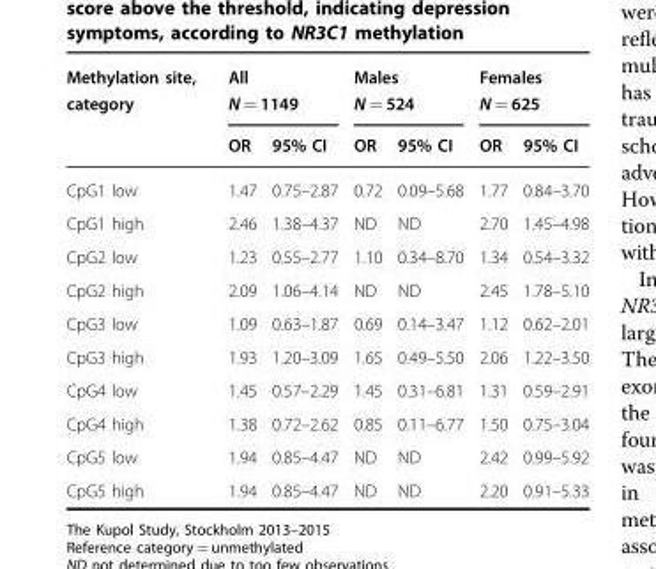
<table><thead><tr><td rowspan="2">Methylation site, category</td><td colspan="2">All N = 1149</td><td colspan="2">Males N = 524</td><td colspan="2">Females N = 625</td></tr><tr><td>OR</td><td>95% CI</td><td>OR</td><td>95% CI</td><td>OR</td><td>95% CI</td></tr></thead><tbody><tr><td>CpG1 low</td><td>1.47</td><td>0.75–2.87</td><td>0.72</td><td>0.09–5.68</td><td>1.77</td><td>0.84–3.70</td></tr><tr><td>CpG1 high</td><td>2.46</td><td>1.38–4.37</td><td>ND</td><td>ND</td><td>2.70</td><td>1.45–4.98</td></tr><tr><td>CpG2 low</td><td>1.23</td><td>0.55–2.77</td><td>1.10</td><td>0.34–8.70</td><td>1.34</td><td>0.54–3.32</td></tr><tr><td>CpG2 high</td><td>2.09</td><td>1.06–4.14</td><td>ND</td><td>ND</td><td>2.45</td><td>1.78–5.10</td></tr><tr><td>CpG3 low</td><td>1.09</td><td>0.63–1.87</td><td>0.69</td><td>0.14–3.47</td><td>1.12</td><td>0.62–2.01</td></tr><tr><td>CpG3 high</td><td>1.93</td><td>1.20–3.09</td><td>1.65</td><td>0.49–5.50</td><td>2.06</td><td>1.22–3.50</td></tr><tr><td>CpG4 low</td><td>1.45</td><td>0.57–2.29</td><td>1.45</td><td>0.31–6.81</td><td>1.31</td><td>0.59–2.91</td></tr><tr><td>CpG4 high</td><td>1.38</td><td>0.72–2.62</td><td>0.85</td><td>0.11–6.77</td><td>1.50</td><td>0.75–3.04</td></tr><tr><td>CpG5 low</td><td>1.94</td><td>0.85–4.47</td><td>ND</td><td>ND</td><td>2.42</td><td>0.99–5.92</td></tr><tr><td>CpG5 high</td><td>1.94</td><td>0.85–4.47</td><td>ND</td><td>ND</td><td>2.20</td><td>0.91–5.33</td></tr></tbody></table>